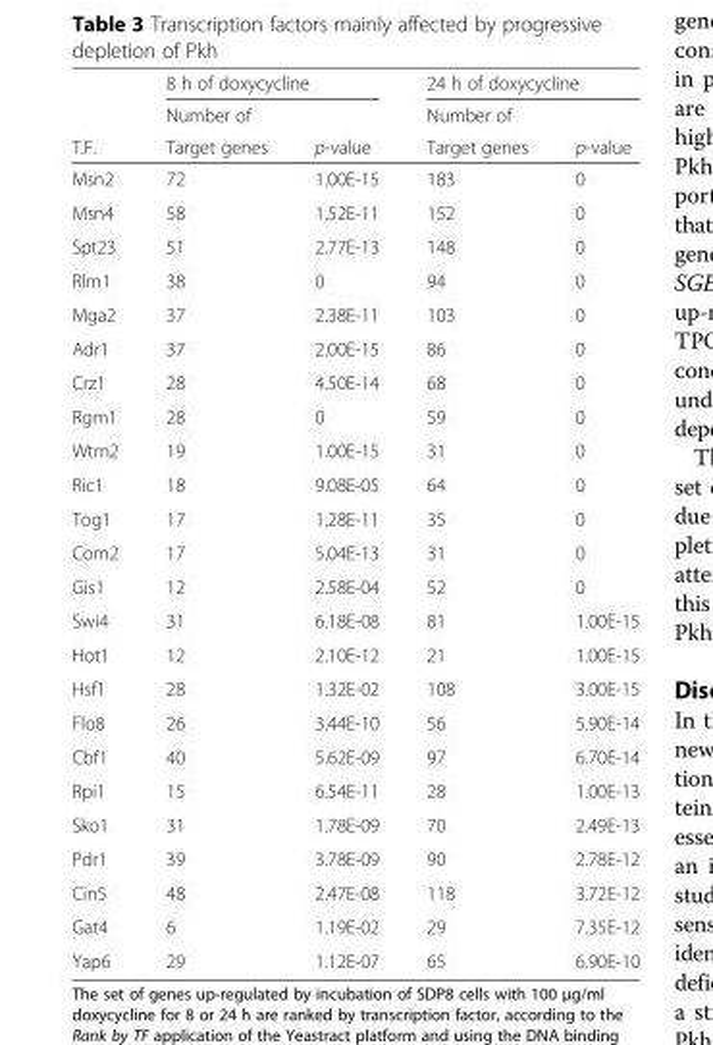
<table><thead><tr><td rowspan="3">T.F.</td><td colspan="2">8 h of doxycycline</td><td colspan="2">24 h of doxycycline</td></tr><tr><td rowspan="2">Number of Target genes</td><td rowspan="2">p-value</td><td rowspan="2">Number of Target genes</td><td rowspan="2">p-value</td></tr><tr></tr></thead><tbody><tr><td>Msn2</td><td>72</td><td>1.00E-15</td><td>183</td><td>0</td></tr><tr><td>Msn4</td><td>58</td><td>1.52E-11</td><td>152</td><td>0</td></tr><tr><td>Spt23</td><td>51</td><td>2.77E-13</td><td>148</td><td>0</td></tr><tr><td>Rlm1</td><td>38</td><td>0</td><td>94</td><td>0</td></tr><tr><td>Mga2</td><td>37</td><td>2.38E-11</td><td>103</td><td>0</td></tr><tr><td>Adr1</td><td>37</td><td>2.00E-15</td><td>86</td><td>0</td></tr><tr><td>Crz1</td><td>28</td><td>4.50E-14</td><td>68</td><td>0</td></tr><tr><td>Rgm1</td><td>28</td><td>0</td><td>59</td><td>0</td></tr><tr><td>Wtm2</td><td>19</td><td>1.00E-15</td><td>31</td><td>0</td></tr><tr><td>Ric1</td><td>18</td><td>9.08E-05</td><td>64</td><td>0</td></tr><tr><td>Tog1</td><td>17</td><td>1.28E-11</td><td>35</td><td>0</td></tr><tr><td>Com2</td><td>17</td><td>5.04E-13</td><td>31</td><td>0</td></tr><tr><td>Gis1</td><td>12</td><td>2.58E-04</td><td>52</td><td>0</td></tr><tr><td>Swi4</td><td>31</td><td>6.18E-08</td><td>81</td><td>1.00E-15</td></tr><tr><td>Hot1</td><td>12</td><td>2.10E-12</td><td>21</td><td>1.00E-15</td></tr><tr><td>Hsf1</td><td>28</td><td>1.32E-02</td><td>108</td><td>3.00E-15</td></tr><tr><td>Flo8</td><td>26</td><td>3.44E-10</td><td>56</td><td>5.90E-14</td></tr><tr><td>Cbf1</td><td>40</td><td>5.62E-09</td><td>97</td><td>6.70E-14</td></tr><tr><td>Rpi1</td><td>15</td><td>6.54E-11</td><td>28</td><td>1.00E-13</td></tr><tr><td>Sko1</td><td>31</td><td>1.78E-09</td><td>70</td><td>2.49E-13</td></tr><tr><td>Pdr1</td><td>39</td><td>3.78E-09</td><td>90</td><td>2.78E-12</td></tr><tr><td>Cin5</td><td>48</td><td>2.47E-08</td><td>118</td><td>3.72E-12</td></tr><tr><td>Gat4</td><td>6</td><td>1.19E-02</td><td>29</td><td>7.35E-12</td></tr><tr><td>Yap6</td><td>29</td><td>1.12E-07</td><td>65</td><td>6.90E-10</td></tr></tbody></table>